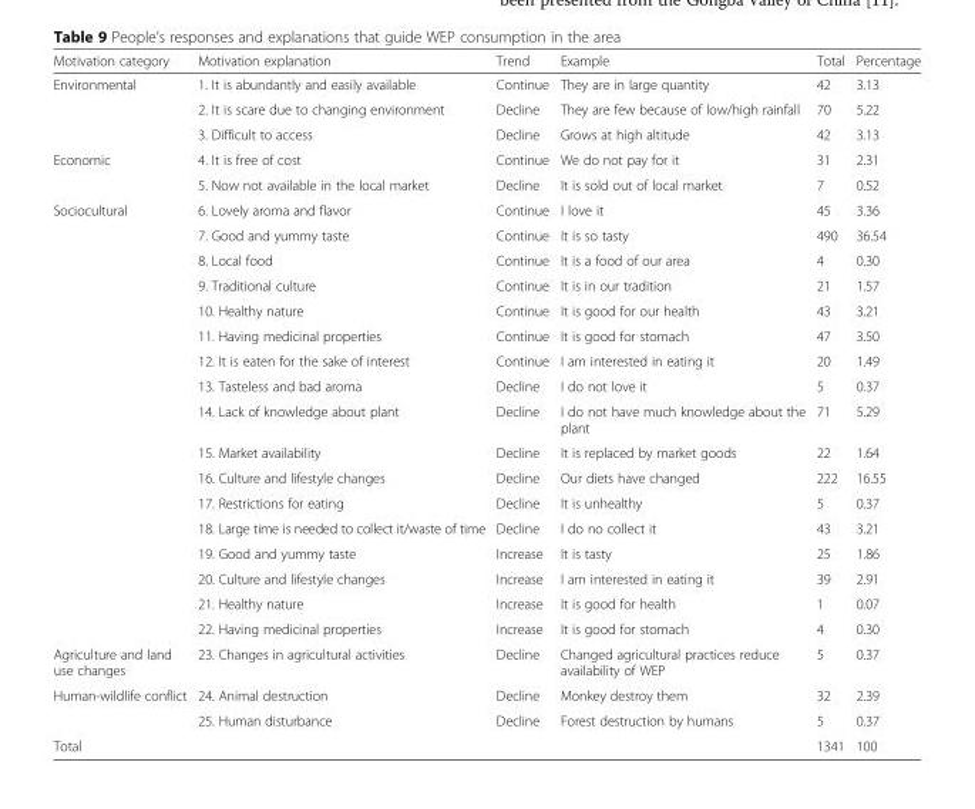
<table><thead><tr><td>Motivation category</td><td>Motivation explanation</td><td>Trend</td><td>Example</td><td>Total</td><td>Percentage</td></tr></thead><tbody><tr><td rowspan="3">Environmental</td><td>1. It is abundantly and easily available</td><td>Continue</td><td>They are in large quantity</td><td>42</td><td>3.13</td></tr><tr><td>2. It is scare due to changing environment</td><td>Decline</td><td>They are few because of low/high rainfall</td><td>70</td><td>5.22</td></tr><tr><td>3. Difficult to access</td><td>Decline</td><td>Grows at high altitude</td><td>42</td><td>3.13</td></tr><tr><td rowspan="2">Economic</td><td>4. It is free of cost</td><td>Continue</td><td>We do not pay for it</td><td>31</td><td>2.31</td></tr><tr><td>5. Now not available in the local market</td><td>Decline</td><td>It is sold out of local market</td><td>7</td><td>0.52</td></tr><tr><td rowspan="17">Sociocultural</td><td>6. Lovely aroma and flavor</td><td>Continue</td><td>I love it</td><td>45</td><td>3.36</td></tr><tr><td>7. Good and yummy taste</td><td>Continue</td><td>It is so tasty</td><td>490</td><td>36.54</td></tr><tr><td>8. Local food</td><td>Continue</td><td>It is a food of our area</td><td>4</td><td>0.30</td></tr><tr><td>9. Traditional culture</td><td>Continue</td><td>It is in our tradition</td><td>21</td><td>1.57</td></tr><tr><td>10. Healthy nature</td><td>Continue</td><td>It is good for our health</td><td>43</td><td>3.21</td></tr><tr><td>11. Having medicinal properties</td><td>Continue</td><td>It is good for stomach</td><td>47</td><td>3.50</td></tr><tr><td>12. It is eaten for the sake of interest</td><td>Continue</td><td>I am interested in eating it</td><td>20</td><td>1.49</td></tr><tr><td>13. Tasteless and bad aroma</td><td>Decline</td><td>I do not love it</td><td>5</td><td>0.37</td></tr><tr><td>14. Lack of knowledge about plant</td><td>Decline</td><td>I do not have much knowledge about the plant</td><td>71</td><td>5.29</td></tr><tr><td>15. Market availability</td><td>Decline</td><td>It is replaced by market goods</td><td>22</td><td>1.64</td></tr><tr><td>16. Culture and lifestyle changes</td><td>Decline</td><td>Our diets have changed</td><td>222</td><td>16.55</td></tr><tr><td>17. Restrictions for eating</td><td>Decline</td><td>It is unhealthy</td><td>5</td><td>0.37</td></tr><tr><td>18. Large time is needed to collect it/waste of time</td><td>Decline</td><td>I do no collect it</td><td>43</td><td>3.21</td></tr><tr><td>19. Good and yummy taste</td><td>Increase</td><td>It is tasty</td><td>25</td><td>1.86</td></tr><tr><td>20. Culture and lifestyle changes</td><td>Increase</td><td>I am interested in eating it</td><td>39</td><td>2.91</td></tr><tr><td>21. Healthy nature</td><td>Increase</td><td>It is good for health</td><td>1</td><td>0.07</td></tr><tr><td>22. Having medicinal properties</td><td>Increase</td><td>It is good for stomach</td><td>4</td><td>0.30</td></tr><tr><td>Agriculture and land use changes</td><td>23. Changes in agricultural activities</td><td>Decline</td><td>Changed agricultural practices reduce availability of WEP</td><td>5</td><td>0.37</td></tr><tr><td rowspan="2">Human-wildlife conflict</td><td>24. Animal destruction</td><td>Decline</td><td>Monkey destroy them</td><td>32</td><td>2.39</td></tr><tr><td>25. Human disturbance</td><td>Decline</td><td>Forest destruction by humans</td><td>5</td><td>0.37</td></tr><tr><td>Total</td><td></td><td></td><td></td><td>1341</td><td>100</td></tr></tbody></table>